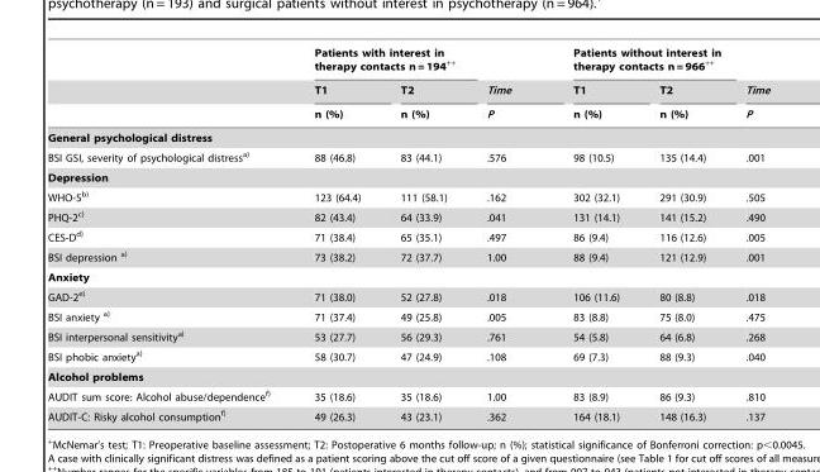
<table><thead><tr><td rowspan="3"></td><td colspan="2">Patients with interest in therapy contacts n = 194++</td><td rowspan="3">Time P</td><td colspan="2">Patients without interest in therapy contacts n = 966++</td><td rowspan="3">Time P</td></tr><tr><td rowspan="2">T1 n (%)</td><td rowspan="2">T2 n (%)</td><td rowspan="2">T1 n (%)</td><td rowspan="2">T2 n (%)</td></tr><tr></tr></thead><tbody><tr><td colspan="7">General psychological distress</td></tr><tr><td>BSI GSI, severity of psychological distressa)</td><td>88 (46.8)</td><td>83 (44.1)</td><td>.576</td><td>98 (10.5)</td><td>135 (14.4)</td><td>.001</td></tr><tr><td colspan="7">Depression</td></tr><tr><td>WHO-5b)</td><td>123 (64.4)</td><td>111 (58.1)</td><td>.162</td><td>302 (32.1)</td><td>291 (30.9)</td><td>.505</td></tr><tr><td>PHQ-2c)</td><td>82 (43.4)</td><td>64 (33.9)</td><td>.041</td><td>131 (14.1)</td><td>141 (15.2)</td><td>.490</td></tr><tr><td>CES-Dd)</td><td>71 (38.4)</td><td>65 (35.1)</td><td>.497</td><td>86 (9.4)</td><td>116 (12.6)</td><td>.005</td></tr><tr><td>BSI depression a)</td><td>73 (38.2)</td><td>72 (37.7)</td><td>1.00</td><td>88 (9.4)</td><td>121 (12.9)</td><td>.001</td></tr><tr><td colspan="7">Anxiety</td></tr><tr><td>GAD-2e)</td><td>71 (38.0)</td><td>52 (27.8)</td><td>.018</td><td>106 (11.6)</td><td>80 (8.8)</td><td>.018</td></tr><tr><td>BSI anxiety a)</td><td>71 (37.4)</td><td>49 (25.8)</td><td>.005</td><td>83 (8.8)</td><td>75 (8.0)</td><td>.475</td></tr><tr><td>BSI interpersonal sensitivitya)</td><td>53 (27.7)</td><td>56 (29.3)</td><td>.761</td><td>54 (5.8)</td><td>64 (6.8)</td><td>.268</td></tr><tr><td>BSI phobic anxietya)</td><td>58 (30.7)</td><td>47 (24.9)</td><td>.108</td><td>69 (7.3)</td><td>88 (9.3)</td><td>.040</td></tr><tr><td colspan="7">Alcohol problems</td></tr><tr><td>AUDIT sum score: Alcohol abuse/dependencef)</td><td>35 (18.6)</td><td>35 (18.6)</td><td>1.00</td><td>83 (8.9)</td><td>86 (9.3)</td><td>.810</td></tr><tr><td>AUDIT-C: Risky alcohol consumptionf)</td><td>49 (26.3)</td><td>43 (23.1)</td><td>.362</td><td>164 (18.1)</td><td>148 (16.3)</td><td>.137</td></tr></tbody></table>